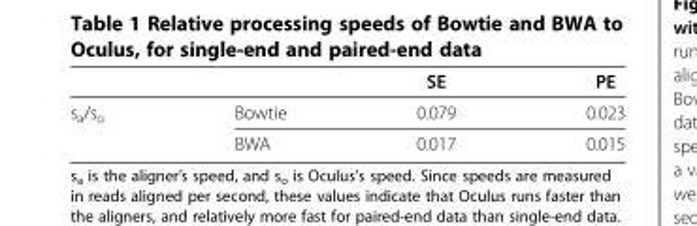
<table><thead><tr><td></td><td></td><td>SE</td><td>PE</td></tr></thead><tbody><tr><td rowspan="2">s<sub>a</sub>/s<sub>o</sub></td><td>Bowtie</td><td>0.079</td><td>0.023</td></tr><tr><td>BWA</td><td>0.017</td><td>0.015</td></tr></tbody></table>